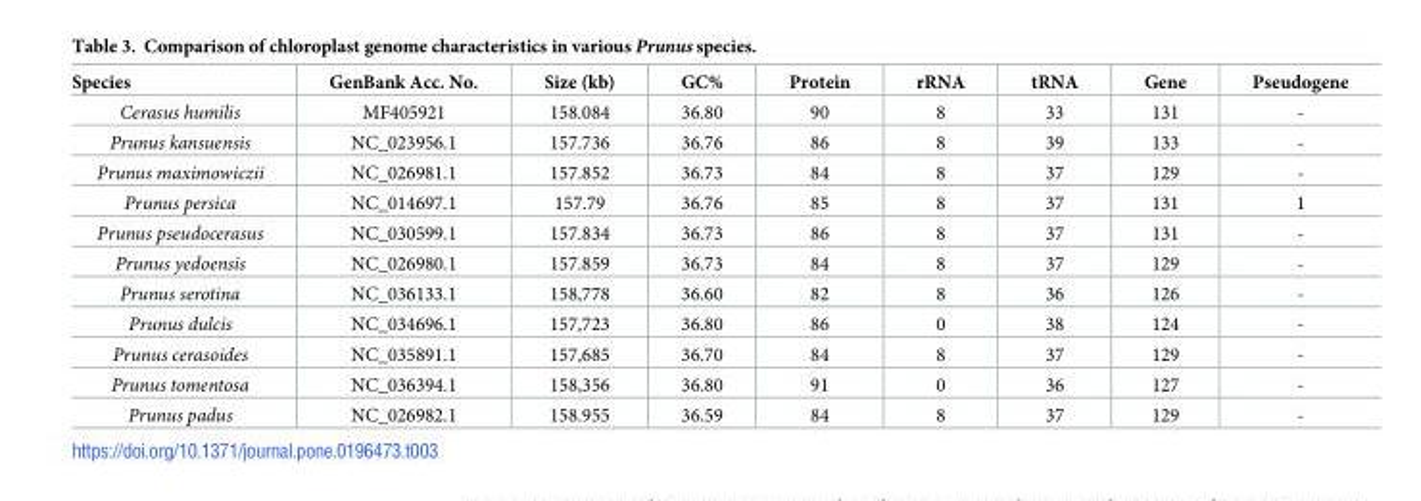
<table><thead><tr><td>Species</td><td>GenBank Acc. No.</td><td>Size (kb)</td><td>GC%</td><td>Protein</td><td>rRNA</td><td>tRNA</td><td>Gene</td><td>Pseudogene</td></tr></thead><tbody><tr><td>Cerasus humilis</td><td>MF405921</td><td>158.084</td><td>36.80</td><td>90</td><td>8</td><td>33</td><td>131</td><td>-</td></tr><tr><td>Prunus kansuensis</td><td>NC_023956.1</td><td>157.736</td><td>36.76</td><td>86</td><td>8</td><td>39</td><td>133</td><td>-</td></tr><tr><td>Prunus maximowiczii</td><td>NC_026981.1</td><td>157.852</td><td>36.73</td><td>84</td><td>8</td><td>37</td><td>129</td><td>-</td></tr><tr><td>Prunus persica</td><td>NC_014697.1</td><td>157.79</td><td>36.76</td><td>85</td><td>8</td><td>37</td><td>131</td><td>1</td></tr><tr><td>Prunus pseudocerasus</td><td>NC_030599.1</td><td>157.834</td><td>36.73</td><td>86</td><td>8</td><td>37</td><td>131</td><td>-</td></tr><tr><td>Prunus yedoensis</td><td>NC_026980.1</td><td>157.859</td><td>36.73</td><td>84</td><td>8</td><td>37</td><td>129</td><td>-</td></tr><tr><td>Prunus serotina</td><td>NC_036133.1</td><td>158,778</td><td>36.60</td><td>82</td><td>8</td><td>36</td><td>126</td><td>-</td></tr><tr><td>Prunus dulcis</td><td>NC_034696.1</td><td>157,723</td><td>36.80</td><td>86</td><td>0</td><td>38</td><td>124</td><td>-</td></tr><tr><td>Prunus cerasoides</td><td>NC_035891.1</td><td>157,685</td><td>36.70</td><td>84</td><td>8</td><td>37</td><td>129</td><td>-</td></tr><tr><td>Prunus tomentosa</td><td>NC_036394.1</td><td>158,356</td><td>36.80</td><td>91</td><td>0</td><td>36</td><td>127</td><td>-</td></tr><tr><td>Prunus padus</td><td>NC_026982.1</td><td>158.955</td><td>36.59</td><td>84</td><td>8</td><td>37</td><td>129</td><td>-</td></tr></tbody></table>